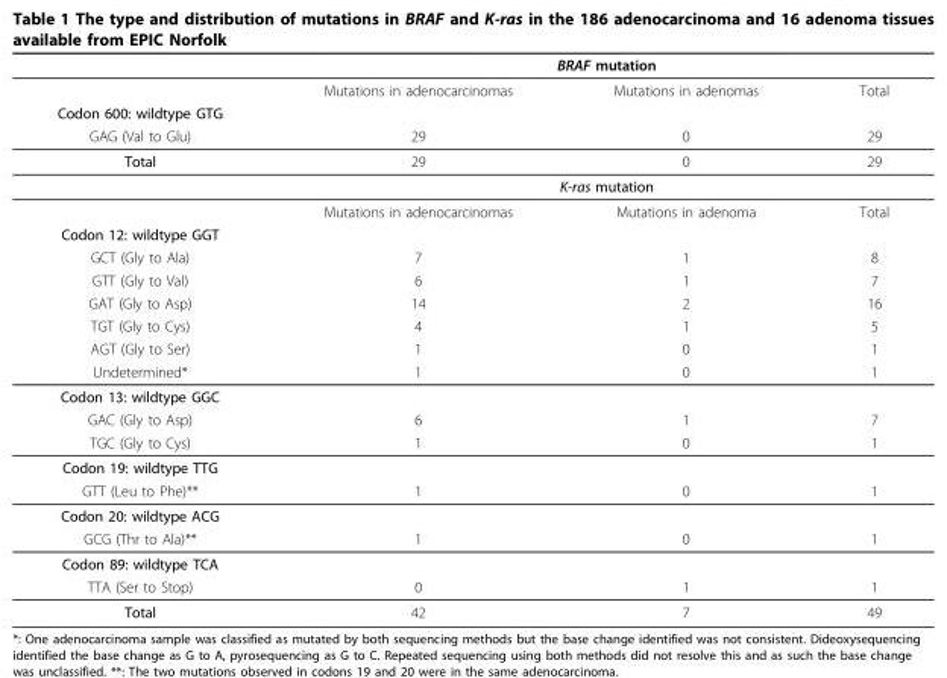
<table><thead><tr><td rowspan="2"></td><td colspan="3">BRAF mutation</td></tr><tr><td>Mutations in adenocarcinomas</td><td>Mutations in adenomas</td><td>Total</td></tr></thead><tbody><tr><td colspan="4">Codon 600: wildtype GTG</td></tr><tr><td>GAG (Val to Glu)</td><td>29</td><td>0</td><td>29</td></tr><tr><td rowspan="3">Total</td><td>29</td><td>0</td><td>29</td></tr><tr><td colspan="3">K-ras mutation</td></tr><tr><td>Mutations in adenocarcinomas</td><td>Mutations in adenoma</td><td>Total</td></tr><tr><td colspan="4">Codon 12: wildtype GGT</td></tr><tr><td>GCT (Gly to Ala)</td><td>7</td><td>1</td><td>8</td></tr><tr><td>GTT (Gly to Val)</td><td>6</td><td>1</td><td>7</td></tr><tr><td>GAT (Gly to Asp)</td><td>14</td><td>2</td><td>16</td></tr><tr><td>TGT (Gly to Cys)</td><td>4</td><td>1</td><td>5</td></tr><tr><td>AGT (Gly to Ser)</td><td>1</td><td>0</td><td>1</td></tr><tr><td>Undetermined*</td><td>1</td><td>0</td><td>1</td></tr><tr><td colspan="4">Codon 13: wildtype GGC</td></tr><tr><td>GAC (Gly to Asp)</td><td>6</td><td>1</td><td>7</td></tr><tr><td>TGC (Gly to Cys)</td><td>1</td><td>0</td><td>1</td></tr><tr><td colspan="4">Codon 19: wildtype TTG</td></tr><tr><td>GTT (Leu to Phe)**</td><td>1</td><td>0</td><td>1</td></tr><tr><td colspan="4">Codon 20: wildtype ACG</td></tr><tr><td>GCG (Thr to Ala)**</td><td>1</td><td>0</td><td>1</td></tr><tr><td colspan="4">Codon 89: wildtype TCA</td></tr><tr><td>TTA (Ser to Stop)</td><td>0</td><td>1</td><td>1</td></tr><tr><td>Total</td><td>42</td><td>7</td><td>49</td></tr></tbody></table>